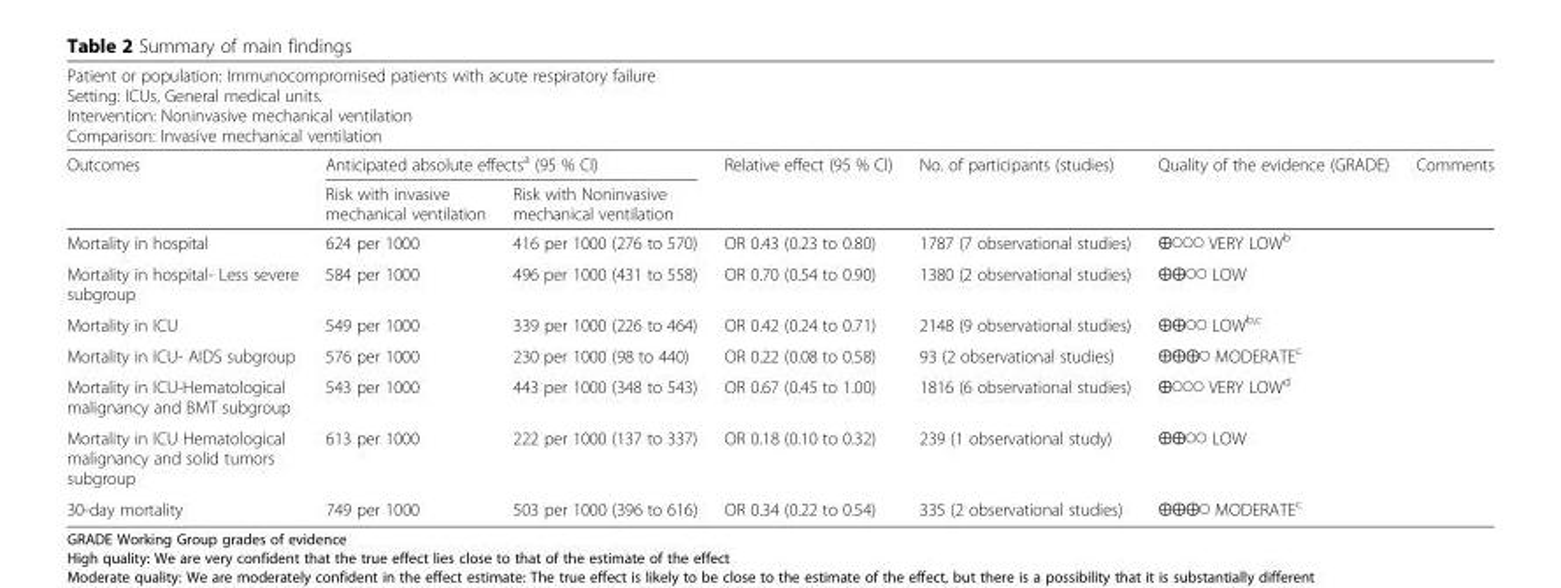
<table><thead><tr><td colspan="7">Patient or population: Immunocompromised patients with acute respiratory failure Setting: ICUs, General medical units. Intervention: Noninvasive mechanical ventilation Comparison: Invasive mechanical ventilation</td></tr><tr><td rowspan="2">Outcomes</td><td colspan="2">Anticipated absolute effects<sup>a</sup> (95 % CI)</td><td rowspan="2">Relative effect (95 % CI)</td><td rowspan="2">No. of participants (studies)</td><td rowspan="2">Quality of the evidence (GRADE)</td><td rowspan="2">Comments</td></tr><tr><td>Risk with invasive mechanical ventilation</td><td>Risk with Noninvasive mechanical ventilation</td></tr></thead><tbody><tr><td>Mortality in hospital</td><td>624 per 1000</td><td>416 per 1000 (276 to 570)</td><td>OR 0.43 (0.23 to 0.80)</td><td>1787 (7 observational studies)</td><td>⨁◯◯◯ VERY LOW<sup>b</sup></td><td></td></tr><tr><td>Mortality in hospital- Less severe subgroup</td><td>584 per 1000</td><td>496 per 1000 (431 to 558)</td><td>OR 0.70 (0.54 to 0.90)</td><td>1380 (2 observational studies)</td><td>⨁⨁◯◯ LOW</td><td></td></tr><tr><td>Mortality in ICU</td><td>549 per 1000</td><td>339 per 1000 (226 to 464)</td><td>OR 0.42 (0.24 to 0.71)</td><td>2148 (9 observational studies)</td><td>⨁⨁◯◯ LOW<sup>b,c</sup></td><td></td></tr><tr><td>Mortality in ICU- AIDS subgroup</td><td>576 per 1000</td><td>230 per 1000 (98 to 440)</td><td>OR 0.22 (0.08 to 0.58)</td><td>93 (2 observational studies)</td><td>⨁⨁⨁◯ MODERATE<sup>c</sup></td><td></td></tr><tr><td>Mortality in ICU-Hematological malignancy and BMT subgroup</td><td>543 per 1000</td><td>443 per 1000 (348 to 543)</td><td>OR 0.67 (0.45 to 1.00)</td><td>1816 (6 observational studies)</td><td>⨁◯◯◯ VERY LOW<sup>d</sup></td><td></td></tr><tr><td>Mortality in ICU Hematological malignancy and solid tumors subgroup</td><td>613 per 1000</td><td>222 per 1000 (137 to 337)</td><td>OR 0.18 (0.10 to 0.32)</td><td>239 (1 observational study)</td><td>⨁⨁◯◯ LOW</td><td></td></tr><tr><td>30-day mortality</td><td>749 per 1000</td><td>503 per 1000 (396 to 616)</td><td>OR 0.34 (0.22 to 0.54)</td><td>335 (2 observational studies)</td><td>⨁⨁⨁◯ MODERATE<sup>c</sup></td><td></td></tr></tbody></table>